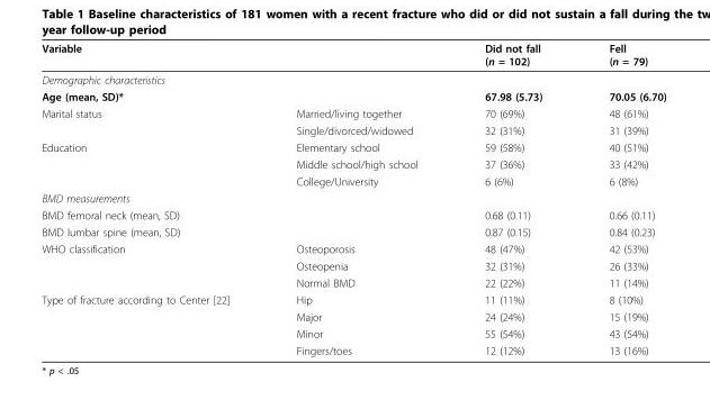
<table><thead><tr><td>Variable</td><td></td><td>Did not fall (n = 102)</td><td>Fell (n = 79)</td></tr></thead><tbody><tr><td colspan="4">Demographic characteristics</td></tr><tr><td>Age (mean, SD)*</td><td></td><td>67.98 (5.73)</td><td>70.05 (6.70)</td></tr><tr><td rowspan="2">Marital status</td><td>Married/living together</td><td>70 (69%)</td><td>48 (61%)</td></tr><tr><td>Single/divorced/widowed</td><td>32 (31%)</td><td>31 (39%)</td></tr><tr><td rowspan="3">Education</td><td>Elementary school</td><td>59 (58%)</td><td>40 (51%)</td></tr><tr><td>Middle school/high school</td><td>37 (36%)</td><td>33 (42%)</td></tr><tr><td>College/University</td><td>6 (6%)</td><td>6 (8%)</td></tr><tr><td colspan="4">BMD measurements</td></tr><tr><td>BMD femoral neck (mean, SD)</td><td></td><td>0.68 (0.11)</td><td>0.66 (0.11)</td></tr><tr><td>BMD lumbar spine (mean, SD)</td><td></td><td>0.87 (0.15)</td><td>0.84 (0.23)</td></tr><tr><td rowspan="3">WHO classification</td><td>Osteoporosis</td><td>48 (47%)</td><td>42 (53%)</td></tr><tr><td>Osteopenia</td><td>32 (31%)</td><td>26 (33%)</td></tr><tr><td>Normal BMD</td><td>22 (22%)</td><td>11 (14%)</td></tr><tr><td rowspan="4">Type of fracture according to Center [22]</td><td>Hip</td><td>11 (11%)</td><td>8 (10%)</td></tr><tr><td>Major</td><td>24 (24%)</td><td>15 (19%)</td></tr><tr><td>Minor</td><td>55 (54%)</td><td>43 (54%)</td></tr><tr><td>Fingers/toes</td><td>12 (12%)</td><td>13 (16%)</td></tr></tbody></table>